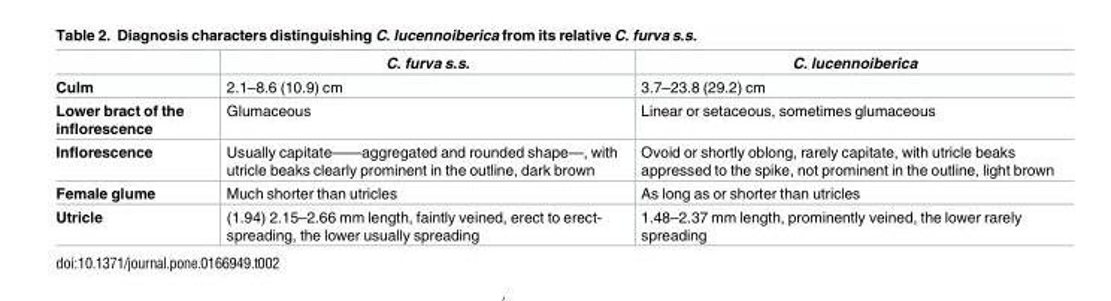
<table><thead><tr><td></td><td>C. furva s.s.</td><td>C. lucennoiberica</td></tr></thead><tbody><tr><td>Culm</td><td>2.1–8.6 (10.9) cm</td><td>3.7–23.8 (29.2) cm</td></tr><tr><td>Lower bract of the inflorescence</td><td>Glumaceous</td><td>Linear or setaceous, sometimes glumaceous</td></tr><tr><td>Inflorescence</td><td>Usually capitate——aggregated and rounded shape—, with utricle beaks clearly prominent in the outline, dark brown</td><td>Ovoid or shortly oblong, rarely capitate, with utricle beaks appressed to the spike, not prominent in the outline, light brown</td></tr><tr><td>Female glume</td><td>Much shorter than utricles</td><td>As long as or shorter than utricles</td></tr><tr><td>Utricle</td><td>(1.94) 2.15–2.66 mm length, faintly veined, erect to erect- spreading, the lower usually spreading</td><td>1.48–2.37 mm length, prominently veined, the lower rarely spreading</td></tr></tbody></table>